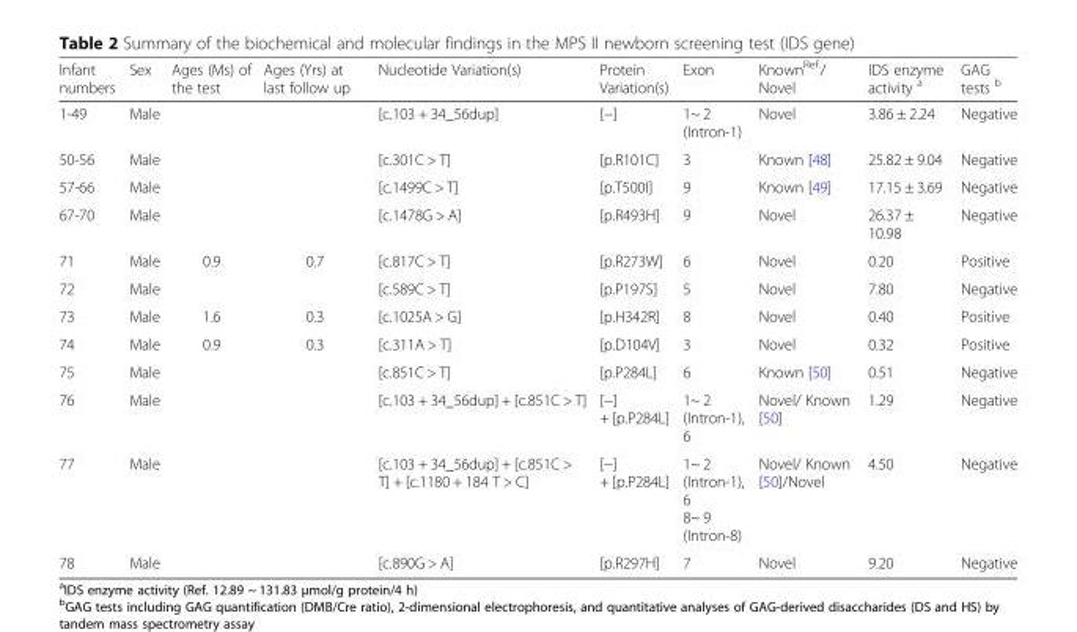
<table><thead><tr><td>Infant numbers</td><td>Sex</td><td>Ages (Ms) of the test</td><td>Ages (Yrs) at last follow up</td><td>Nucleotide Variation(s)</td><td>Protein Variation(s)</td><td>Exon</td><td>Known<sup>Ref.</sup>/ Novel</td><td>IDS enzyme activity <sup>a</sup></td><td>GAG tests <sup>b</sup></td></tr></thead><tbody><tr><td>1-49</td><td>Male</td><td></td><td></td><td>[c.103 + 34_56dup]</td><td>[−]</td><td>1~ 2 (Intron-1)</td><td>Novel</td><td>3.86 ± 2.24</td><td>Negative</td></tr><tr><td>50-56</td><td>Male</td><td></td><td></td><td>[c.301C &gt; T]</td><td>[p.R101C]</td><td>3</td><td>Known [48]</td><td>25.82 ± 9.04</td><td>Negative</td></tr><tr><td>57-66</td><td>Male</td><td></td><td></td><td>[c.1499C &gt; T]</td><td>[p.T500I]</td><td>9</td><td>Known [49]</td><td>17.15 ± 3.69</td><td>Negative</td></tr><tr><td>67-70</td><td>Male</td><td></td><td></td><td>[c.1478G &gt; A]</td><td>[p.R493H]</td><td>9</td><td>Novel</td><td>26.37 ± 10.98</td><td>Negative</td></tr><tr><td>71</td><td>Male</td><td>0.9</td><td>0.7</td><td>[c.817C &gt; T]</td><td>[p.R273W]</td><td>6</td><td>Novel</td><td>0.20</td><td>Positive</td></tr><tr><td>72</td><td>Male</td><td></td><td></td><td>[c.589C &gt; T]</td><td>[p.P197S]</td><td>5</td><td>Novel</td><td>7.80</td><td>Negative</td></tr><tr><td>73</td><td>Male</td><td>1.6</td><td>0.3</td><td>[c.1025A &gt; G]</td><td>[p.H342R]</td><td>8</td><td>Novel</td><td>0.40</td><td>Positive</td></tr><tr><td>74</td><td>Male</td><td>0.9</td><td>0.3</td><td>[c.311A &gt; T]</td><td>[p.D104V]</td><td>3</td><td>Novel</td><td>0.32</td><td>Positive</td></tr><tr><td>75</td><td>Male</td><td></td><td></td><td>[c.851C &gt; T]</td><td>[p.P284L]</td><td>6</td><td>Known [50]</td><td>0.51</td><td>Negative</td></tr><tr><td>76</td><td>Male</td><td></td><td></td><td>[c.103 + 34_56dup] + [c.851C &gt; T]</td><td>[−] + [p.P284L]</td><td>1~ 2 (Intron-1), 6</td><td>Novel/ Known [50]</td><td>1.29</td><td>Negative</td></tr><tr><td>77</td><td>Male</td><td></td><td></td><td>[c.103 + 34_56dup] + [c.851C &gt; T] + [c.1180 + 184 T &gt; C]</td><td>[−] + [p.P284L]</td><td>1~ 2 (Intron-1), 6 8~ 9 (Intron-8)</td><td>Novel/ Known [50]/Novel</td><td>4.50</td><td>Negative</td></tr><tr><td>78</td><td>Male</td><td></td><td></td><td>[c.890G &gt; A]</td><td>[p.R297H]</td><td>7</td><td>Novel</td><td>9.20</td><td>Negative</td></tr></tbody></table>